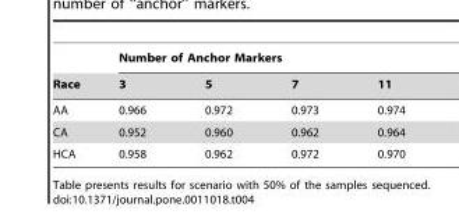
<table><thead><tr><td rowspan="2">Race</td><td colspan="4">Number of Anchor Markers</td></tr><tr><td>3</td><td>5</td><td>7</td><td>11</td></tr></thead><tbody><tr><td>AA</td><td>0.966</td><td>0.972</td><td>0.973</td><td>0.974</td></tr><tr><td>CA</td><td>0.952</td><td>0.960</td><td>0.962</td><td>0.964</td></tr><tr><td>HCA</td><td>0.958</td><td>0.962</td><td>0.972</td><td>0.970</td></tr></tbody></table>